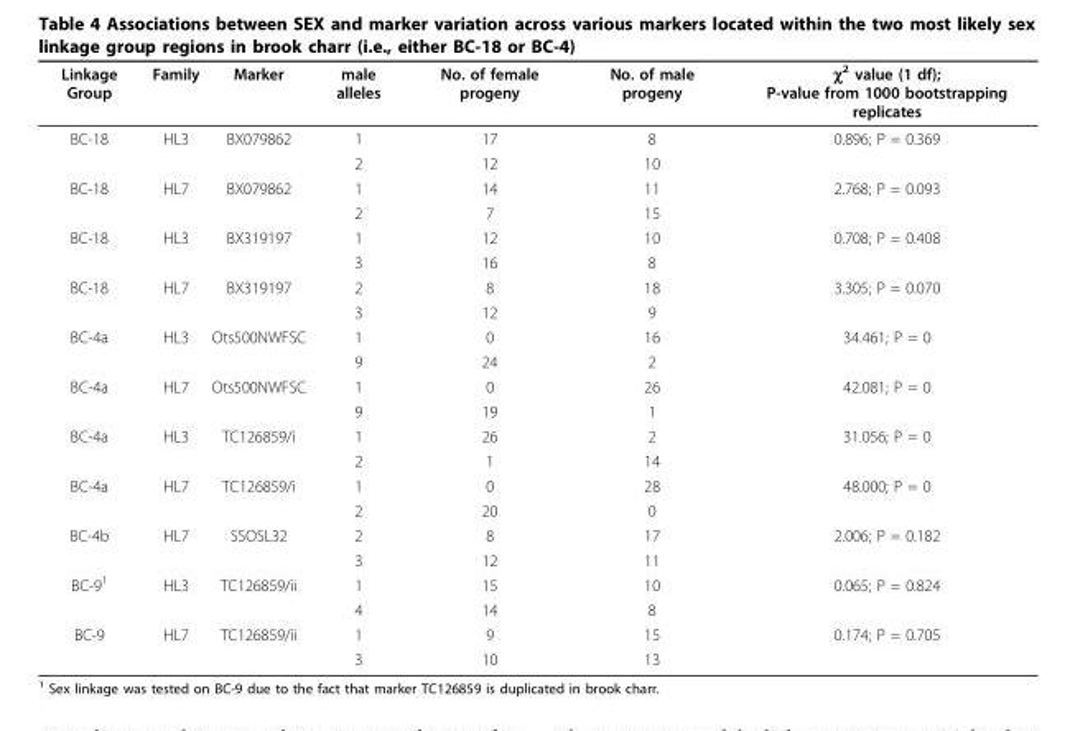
<table><thead><tr><td>Linkage Group</td><td>Family</td><td>Marker</td><td>male alleles</td><td>No. of female progeny</td><td>No. of male progeny</td><td>χ<sup>2</sup> value (1 df); P-value from 1000 bootstrapping replicates</td></tr></thead><tbody><tr><td rowspan="2">BC-18</td><td>HL3</td><td>BX079862</td><td>1</td><td>17</td><td>8</td><td>0.896; P = 0.369</td></tr><tr><td></td><td></td><td>2</td><td>12</td><td>10</td><td></td></tr><tr><td rowspan="2">BC-18</td><td>HL7</td><td>BX079862</td><td>1</td><td>14</td><td>11</td><td>2.768; P = 0.093</td></tr><tr><td></td><td></td><td>2</td><td>7</td><td>15</td><td></td></tr><tr><td rowspan="2">BC-18</td><td>HL3</td><td>BX319197</td><td>1</td><td>12</td><td>10</td><td>0.708; P = 0.408</td></tr><tr><td></td><td></td><td>3</td><td>16</td><td>8</td><td></td></tr><tr><td rowspan="2">BC-18</td><td>HL7</td><td>BX319197</td><td>2</td><td>8</td><td>18</td><td>3.305; P = 0.070</td></tr><tr><td></td><td></td><td>3</td><td>12</td><td>9</td><td></td></tr><tr><td rowspan="2">BC-4a</td><td>HL3</td><td>Ots500NWFSC</td><td>1</td><td>0</td><td>16</td><td>34.461; P = 0</td></tr><tr><td></td><td></td><td>9</td><td>24</td><td>2</td><td></td></tr><tr><td rowspan="2">BC-4a</td><td>HL7</td><td>Ots500NWFSC</td><td>1</td><td>0</td><td>26</td><td>42.081; P = 0</td></tr><tr><td></td><td></td><td>9</td><td>19</td><td>1</td><td></td></tr><tr><td rowspan="2">BC-4a</td><td>HL3</td><td>TC126859/i</td><td>1</td><td>26</td><td>2</td><td>31.056; P = 0</td></tr><tr><td></td><td></td><td>2</td><td>1</td><td>14</td><td></td></tr><tr><td rowspan="2">BC-4a</td><td>HL7</td><td>TC126859/i</td><td>1</td><td>0</td><td>28</td><td>48.000; P = 0</td></tr><tr><td></td><td></td><td>2</td><td>20</td><td>0</td><td></td></tr><tr><td rowspan="2">BC-4b</td><td>HL7</td><td>SSOSL32</td><td>2</td><td>8</td><td>17</td><td>2.006; P = 0.182</td></tr><tr><td></td><td></td><td>3</td><td>12</td><td>11</td><td></td></tr><tr><td rowspan="2">BC-9<sup>1</sup></td><td>HL3</td><td>TC126859/ii</td><td>1</td><td>15</td><td>10</td><td>0.065; P = 0.824</td></tr><tr><td></td><td></td><td>4</td><td>14</td><td>8</td><td></td></tr><tr><td rowspan="2">BC-9</td><td>HL7</td><td>TC126859/ii</td><td>1</td><td>9</td><td>15</td><td>0.174; P = 0.705</td></tr><tr><td></td><td></td><td>3</td><td>10</td><td>13</td><td></td></tr></tbody></table>